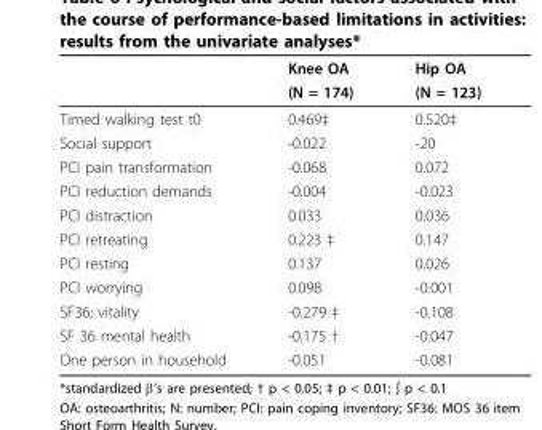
<table><thead><tr><td rowspan="2"></td><td rowspan="2">Knee OA (N = 174)</td><td rowspan="2">Hip OA (N = 123)</td></tr><tr></tr></thead><tbody><tr><td>Timed walking test t0</td><td>0.469‡</td><td>0.520‡</td></tr><tr><td>Social support</td><td>-0.022</td><td>-20</td></tr><tr><td>PCI pain transformation</td><td>-0.068</td><td>0.072</td></tr><tr><td>PCI reduction demands</td><td>-0.004</td><td>-0.023</td></tr><tr><td>PCI distraction</td><td>0.033</td><td>0.036</td></tr><tr><td>PCI retreating</td><td>0.223 ‡</td><td>0.147</td></tr><tr><td>PCI resting</td><td>0.137</td><td>0.026</td></tr><tr><td>PCI worrying</td><td>0.098</td><td>-0.001</td></tr><tr><td>SF36; vitality</td><td>-0.279 ‡</td><td>-0.108</td></tr><tr><td>SF 36 mental health</td><td>-0.175 †</td><td>-0.047</td></tr><tr><td>One person in household</td><td>-0.051</td><td>-0.081</td></tr></tbody></table>